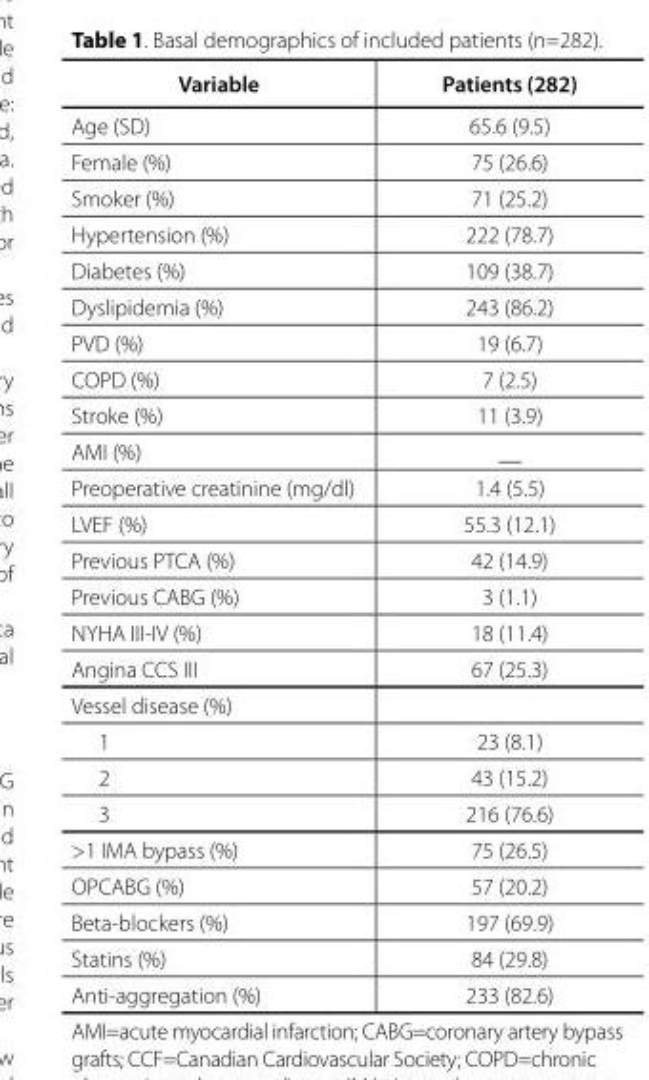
<table><thead><tr><td>Variable</td><td>Patients (282)</td></tr></thead><tbody><tr><td>Age (SD)</td><td>65.6 (9.5)</td></tr><tr><td>Female (%)</td><td>75 (26.6)</td></tr><tr><td>Smoker (%)</td><td>71 (25.2)</td></tr><tr><td>Hypertension (%)</td><td>222 (78.7)</td></tr><tr><td>Diabetes (%)</td><td>109 (38.7)</td></tr><tr><td>Dyslipidemia (%)</td><td>243 (86.2)</td></tr><tr><td>PVD (%)</td><td>19 (6.7)</td></tr><tr><td>COPD (%)</td><td>7 (2.5)</td></tr><tr><td>Stroke (%)</td><td>11 (3.9)</td></tr><tr><td>AMI (%)</td><td>__</td></tr><tr><td>Preoperative creatinine (mg/dl)</td><td>1.4 (5.5)</td></tr><tr><td>LVEF (%)</td><td>55.3 (12.1)</td></tr><tr><td>Previous PTCA (%)</td><td>42 (14.9)</td></tr><tr><td>Previous CABG (%)</td><td>3 (1.1)</td></tr><tr><td>NYHA III-IV (%)</td><td>18 (11.4)</td></tr><tr><td>Angina CCS III</td><td>67 (25.3)</td></tr><tr><td colspan="2">Vessel disease (%)</td></tr><tr><td>1</td><td>23 (8.1)</td></tr><tr><td>2</td><td>43 (15.2)</td></tr><tr><td>3</td><td>216 (76.6)</td></tr><tr><td>&gt;1 IMA bypass (%)</td><td>75 (26.5)</td></tr><tr><td>OPCABG (%)</td><td>57 (20.2)</td></tr><tr><td>Beta-blockers (%)</td><td>197 (69.9)</td></tr><tr><td>Statins (%)</td><td>84 (29.8)</td></tr><tr><td>Anti-aggregation (%)</td><td>233 (82.6)</td></tr></tbody></table>